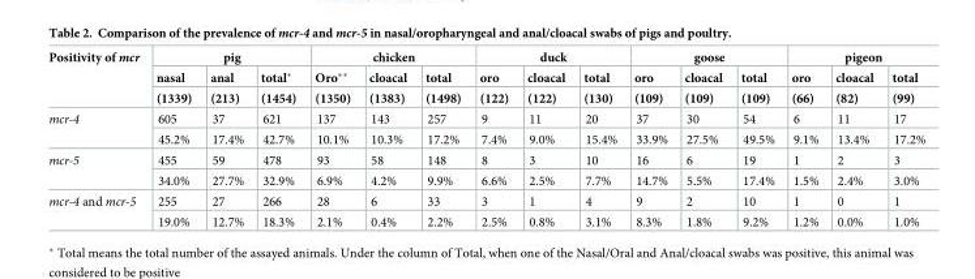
<table><thead><tr><td rowspan="3">Positivity of mcr</td><td colspan="3">pig</td><td colspan="3">chicken</td><td colspan="3">duck</td><td colspan="3">goose</td><td colspan="3">pigeon</td></tr><tr><td rowspan="2">nasal (1339)</td><td rowspan="2">anal (213)</td><td rowspan="2">total* (1454)</td><td rowspan="2">Oro** (1350)</td><td rowspan="2">cloacal (1383)</td><td rowspan="2">total (1498)</td><td rowspan="2">oro (122)</td><td rowspan="2">cloacal (122)</td><td rowspan="2">total (130)</td><td rowspan="2">oro (109)</td><td rowspan="2">cloacal (109)</td><td rowspan="2">total (109)</td><td rowspan="2">oro (66)</td><td rowspan="2">cloacal (82)</td><td rowspan="2">total (99)</td></tr><tr></tr></thead><tbody><tr><td rowspan="2">mcr-4</td><td>605</td><td>37</td><td>621</td><td>137</td><td>143</td><td>257</td><td>9</td><td>11</td><td>20</td><td>37</td><td>30</td><td>54</td><td>6</td><td>11</td><td>17</td></tr><tr><td>45.2%</td><td>17.4%</td><td>42.7%</td><td>10.1%</td><td>10.3%</td><td>17.2%</td><td>7.4%</td><td>9.0%</td><td>15.4%</td><td>33.9%</td><td>27.5%</td><td>49.5%</td><td>9.1%</td><td>13.4%</td><td>17.2%</td></tr><tr><td rowspan="2">mcr-5</td><td>455</td><td>59</td><td>478</td><td>93</td><td>58</td><td>148</td><td>8</td><td>3</td><td>10</td><td>16</td><td>6</td><td>19</td><td>1</td><td>2</td><td>3</td></tr><tr><td>34.0%</td><td>27.7%</td><td>32.9%</td><td>6.9%</td><td>4.2%</td><td>9.9%</td><td>6.6%</td><td>2.5%</td><td>7.7%</td><td>14.7%</td><td>5.5%</td><td>17.4%</td><td>1.5%</td><td>2.4%</td><td>3.0%</td></tr><tr><td rowspan="2">mcr-4 and mcr-5</td><td>255</td><td>27</td><td>266</td><td>28</td><td>6</td><td>33</td><td>3</td><td>1</td><td>4</td><td>9</td><td>2</td><td>10</td><td>1</td><td>0</td><td>1</td></tr><tr><td>19.0%</td><td>12.7%</td><td>18.3%</td><td>2.1%</td><td>0.4%</td><td>2.2%</td><td>2.5%</td><td>0.8%</td><td>3.1%</td><td>8.3%</td><td>1.8%</td><td>9.2%</td><td>1.2%</td><td>0.0%</td><td>1.0%</td></tr></tbody></table>